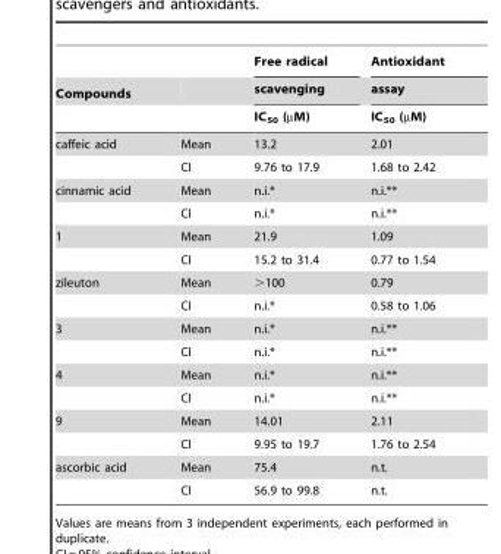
<table><thead><tr><td rowspan="3">Compounds</td><td rowspan="3"></td><td rowspan="3">Free radical scavenging IC<sub>50</sub> (µM)</td><td rowspan="3">Antioxidant assay IC<sub>50</sub> (µM)</td></tr><tr></tr><tr></tr></thead><tbody><tr><td rowspan="2">caffeic acid</td><td>Mean</td><td>13.2</td><td>2.01</td></tr><tr><td>CI</td><td>9.76 to 17.9</td><td>1.68 to 2.42</td></tr><tr><td rowspan="2">cinnamic acid</td><td>Mean</td><td>n.i.*</td><td>n.i.**</td></tr><tr><td>CI</td><td>n.i.*</td><td>n.i.**</td></tr><tr><td rowspan="2">1</td><td>Mean</td><td>21.9</td><td>1.09</td></tr><tr><td>CI</td><td>15.2 to 31.4</td><td>0.77 to 1.54</td></tr><tr><td rowspan="2">zileuton</td><td>Mean</td><td>&gt;100</td><td>0.79</td></tr><tr><td>CI</td><td>n.i.*</td><td>0.58 to 1.06</td></tr><tr><td rowspan="2">3</td><td>Mean</td><td>n.i.*</td><td>n.i.**</td></tr><tr><td>CI</td><td>n.i.*</td><td>n.i.**</td></tr><tr><td rowspan="2">4</td><td>Mean</td><td>n.i.*</td><td>n.i.**</td></tr><tr><td>CI</td><td>n.i.*</td><td>n.i.**</td></tr><tr><td rowspan="2">9</td><td>Mean</td><td>14.01</td><td>2.11</td></tr><tr><td>CI</td><td>9.95 to 19.7</td><td>1.76 to 2.54</td></tr><tr><td rowspan="2">ascorbic acid</td><td>Mean</td><td>75.4</td><td>n.t.</td></tr><tr><td>CI</td><td>56.9 to 99.8</td><td>n.t.</td></tr></tbody></table>